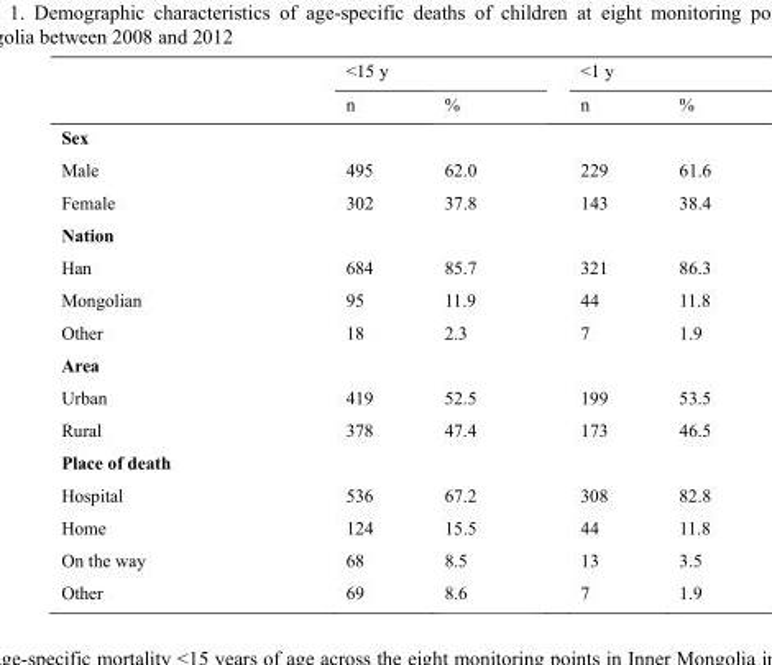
<table><thead><tr><td rowspan="2"></td><td colspan="2">&lt;15 y</td><td colspan="2">&lt;1 y</td></tr><tr><td>n</td><td>%</td><td>n</td><td>%</td></tr></thead><tbody><tr><td colspan="5">Sex</td></tr><tr><td>Male</td><td>495</td><td>62.0</td><td>229</td><td>61.6</td></tr><tr><td>Female</td><td>302</td><td>37.8</td><td>143</td><td>38.4</td></tr><tr><td colspan="5">Nation</td></tr><tr><td>Han</td><td>684</td><td>85.7</td><td>321</td><td>86.3</td></tr><tr><td>Mongolian</td><td>95</td><td>11.9</td><td>44</td><td>11.8</td></tr><tr><td>Other</td><td>18</td><td>2.3</td><td>7</td><td>1.9</td></tr><tr><td colspan="5">Area</td></tr><tr><td>Urban</td><td>419</td><td>52.5</td><td>199</td><td>53.5</td></tr><tr><td>Rural</td><td>378</td><td>47.4</td><td>173</td><td>46.5</td></tr><tr><td colspan="5">Place of death</td></tr><tr><td>Hospital</td><td>536</td><td>67.2</td><td>308</td><td>82.8</td></tr><tr><td>Home</td><td>124</td><td>15.5</td><td>44</td><td>11.8</td></tr><tr><td>On the way</td><td>68</td><td>8.5</td><td>13</td><td>3.5</td></tr><tr><td>Other</td><td>69</td><td>8.6</td><td>7</td><td>1.9</td></tr></tbody></table>